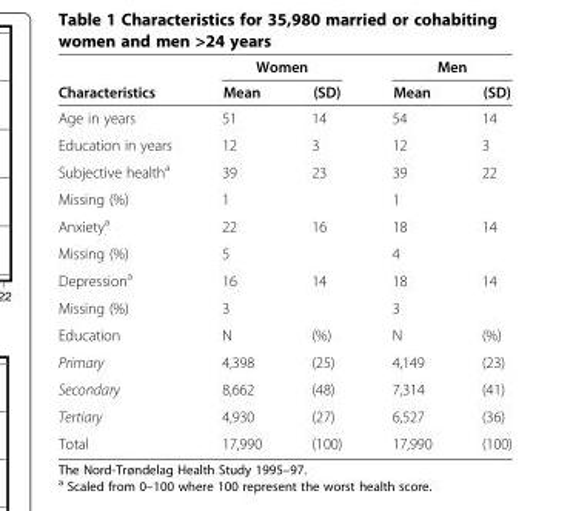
<table><thead><tr><td rowspan="2">Characteristics</td><td colspan="2">Women</td><td colspan="2">Men</td></tr><tr><td>Mean</td><td>(SD)</td><td>Mean</td><td>(SD)</td></tr></thead><tbody><tr><td>Age in years</td><td>51</td><td>14</td><td>54</td><td>14</td></tr><tr><td>Education in years</td><td>12</td><td>3</td><td>12</td><td>3</td></tr><tr><td>Subjective health<sup>a</sup></td><td>39</td><td>23</td><td>39</td><td>22</td></tr><tr><td>Missing (%)</td><td>1</td><td></td><td>1</td><td></td></tr><tr><td>Anxiety<sup>a</sup></td><td>22</td><td>16</td><td>18</td><td>14</td></tr><tr><td>Missing (%)</td><td>5</td><td></td><td>4</td><td></td></tr><tr><td>Depression<sup>a</sup></td><td>16</td><td>14</td><td>18</td><td>14</td></tr><tr><td>Missing (%)</td><td>3</td><td></td><td>3</td><td></td></tr><tr><td>Education</td><td>N</td><td>(%)</td><td>N</td><td>(%)</td></tr><tr><td>Primary</td><td>4,398</td><td>(25)</td><td>4,149</td><td>(23)</td></tr><tr><td>Secondary</td><td>8,662</td><td>(48)</td><td>7,314</td><td>(41)</td></tr><tr><td>Tertiary</td><td>4,930</td><td>(27)</td><td>6,527</td><td>(36)</td></tr><tr><td>Total</td><td>17,990</td><td>(100)</td><td>17,990</td><td>(100)</td></tr></tbody></table>